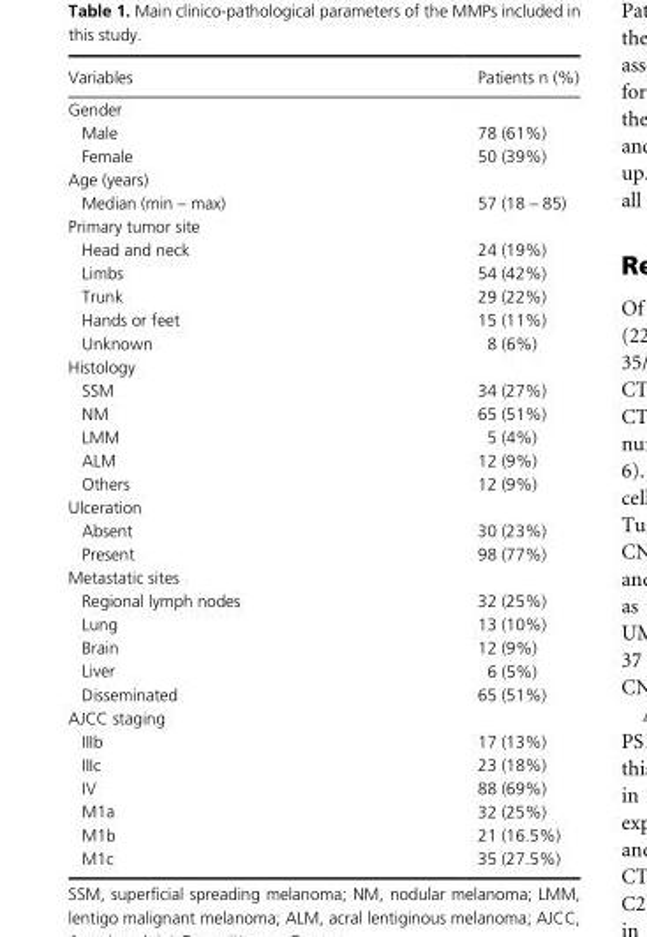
<table><thead><tr><td>Variables</td><td>Patients n (%)</td></tr></thead><tbody><tr><td colspan="2">Gender</td></tr><tr><td>Male</td><td>78 (61%)</td></tr><tr><td>Female</td><td>50 (39%)</td></tr><tr><td colspan="2">Age (years)</td></tr><tr><td>Median (min – max)</td><td>57 (18 – 85)</td></tr><tr><td colspan="2">Primary tumor site</td></tr><tr><td>Head and neck</td><td>24 (19%)</td></tr><tr><td>Limbs</td><td>54 (42%)</td></tr><tr><td>Trunk</td><td>29 (22%)</td></tr><tr><td>Hands or feet</td><td>15 (11%)</td></tr><tr><td>Unknown</td><td>8 (6%)</td></tr><tr><td colspan="2">Histology</td></tr><tr><td>SSM</td><td>34 (27%)</td></tr><tr><td>NM</td><td>65 (51%)</td></tr><tr><td>LMM</td><td>5 (4%)</td></tr><tr><td>ALM</td><td>12 (9%)</td></tr><tr><td>Others</td><td>12 (9%)</td></tr><tr><td colspan="2">Ulceration</td></tr><tr><td>Absent</td><td>30 (23%)</td></tr><tr><td>Present</td><td>98 (77%)</td></tr><tr><td colspan="2">Metastatic sites</td></tr><tr><td>Regional lymph nodes</td><td>32 (25%)</td></tr><tr><td>Lung</td><td>13 (10%)</td></tr><tr><td>Brain</td><td>12 (9%)</td></tr><tr><td>Liver</td><td>6 (5%)</td></tr><tr><td>Disseminated</td><td>65 (51%)</td></tr><tr><td colspan="2">AJCC staging</td></tr><tr><td>IIIb</td><td>17 (13%)</td></tr><tr><td>IIIc</td><td>23 (18%)</td></tr><tr><td>IV</td><td>88 (69%)</td></tr><tr><td>M1a</td><td>32 (25%)</td></tr><tr><td>M1b</td><td>21 (16.5%)</td></tr><tr><td>M1c</td><td>35 (27.5%)</td></tr></tbody></table>